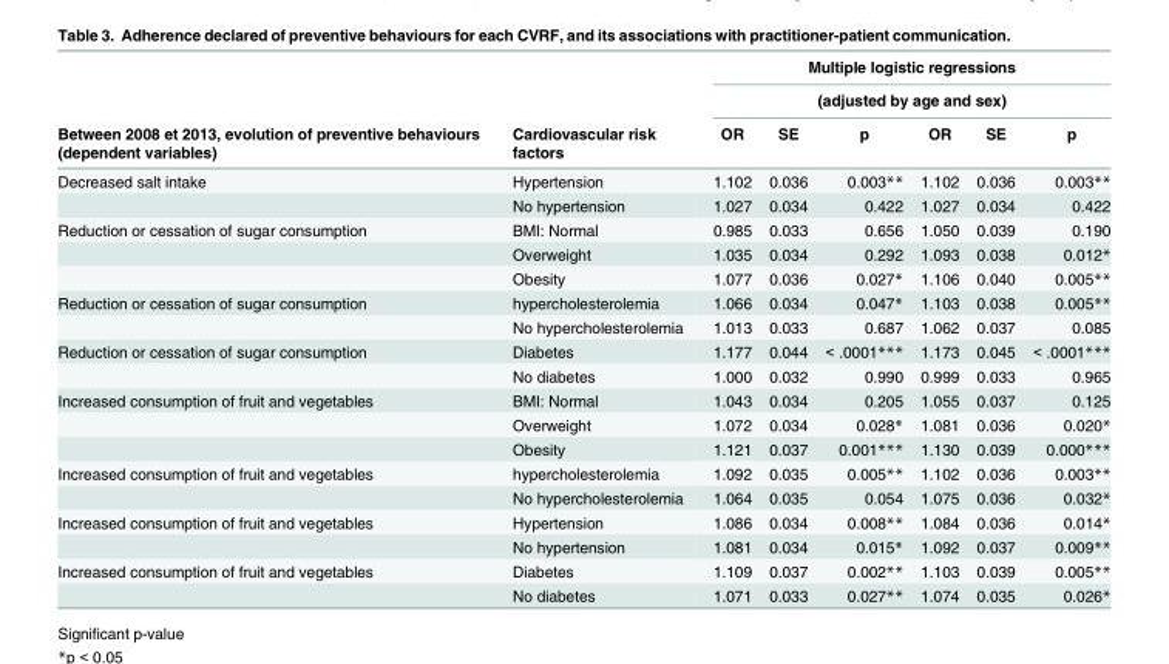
<table><thead><tr><td rowspan="3">Between 2008 et 2013, evolution of preventive behaviours (dependent variables)</td><td rowspan="3">Cardiovascular risk factors</td><td rowspan="2" colspan="6">Multiple logistic regressions (adjusted by age and sex)</td></tr><tr></tr><tr><td>OR</td><td>SE</td><td>p</td><td>OR</td><td>SE</td><td>p</td></tr></thead><tbody><tr><td rowspan="2">Decreased salt intake</td><td>Hypertension</td><td>1.102</td><td>0.036</td><td>0.003**</td><td>1.102</td><td>0.036</td><td>0.003**</td></tr><tr><td>No hypertension</td><td>1.027</td><td>0.034</td><td>0.422</td><td>1.027</td><td>0.034</td><td>0.422</td></tr><tr><td rowspan="3">Reduction or cessation of sugar consumption</td><td>BMI: Normal</td><td>0.985</td><td>0.033</td><td>0.656</td><td>1.050</td><td>0.039</td><td>0.190</td></tr><tr><td>Overweight</td><td>1.035</td><td>0.034</td><td>0.292</td><td>1.093</td><td>0.038</td><td>0.012*</td></tr><tr><td>Obesity</td><td>1.077</td><td>0.036</td><td>0.027*</td><td>1.106</td><td>0.040</td><td>0.005**</td></tr><tr><td rowspan="2">Reduction or cessation of sugar consumption</td><td>hypercholesterolemia</td><td>1.066</td><td>0.034</td><td>0.047*</td><td>1.103</td><td>0.038</td><td>0.005**</td></tr><tr><td>No hypercholesterolemia</td><td>1.013</td><td>0.033</td><td>0.687</td><td>1.062</td><td>0.037</td><td>0.085</td></tr><tr><td rowspan="2">Reduction or cessation of sugar consumption</td><td>Diabetes</td><td>1.177</td><td>0.044</td><td>&lt; .0001***</td><td>1.173</td><td>0.045</td><td>&lt; .0001***</td></tr><tr><td>No diabetes</td><td>1.000</td><td>0.032</td><td>0.990</td><td>0.999</td><td>0.033</td><td>0.965</td></tr><tr><td rowspan="3">Increased consumption of fruit and vegetables</td><td>BMI: Normal</td><td>1.043</td><td>0.034</td><td>0.205</td><td>1.055</td><td>0.037</td><td>0.125</td></tr><tr><td>Overweight</td><td>1.072</td><td>0.034</td><td>0.028*</td><td>1.081</td><td>0.036</td><td>0.020*</td></tr><tr><td>Obesity</td><td>1.121</td><td>0.037</td><td>0.001***</td><td>1.130</td><td>0.039</td><td>0.000***</td></tr><tr><td rowspan="2">Increased consumption of fruit and vegetables</td><td>hypercholesterolemia</td><td>1.092</td><td>0.035</td><td>0.005**</td><td>1.102</td><td>0.036</td><td>0.003**</td></tr><tr><td>No hypercholesterolemia</td><td>1.064</td><td>0.035</td><td>0.054</td><td>1.075</td><td>0.036</td><td>0.032*</td></tr><tr><td rowspan="2">Increased consumption of fruit and vegetables</td><td>Hypertension</td><td>1.086</td><td>0.034</td><td>0.008**</td><td>1.084</td><td>0.036</td><td>0.014*</td></tr><tr><td>No hypertension</td><td>1.081</td><td>0.034</td><td>0.015*</td><td>1.092</td><td>0.037</td><td>0.009**</td></tr><tr><td rowspan="2">Increased consumption of fruit and vegetables</td><td>Diabetes</td><td>1.109</td><td>0.037</td><td>0.002**</td><td>1.103</td><td>0.039</td><td>0.005**</td></tr><tr><td>No diabetes</td><td>1.071</td><td>0.033</td><td>0.027**</td><td>1.074</td><td>0.035</td><td>0.026*</td></tr></tbody></table>